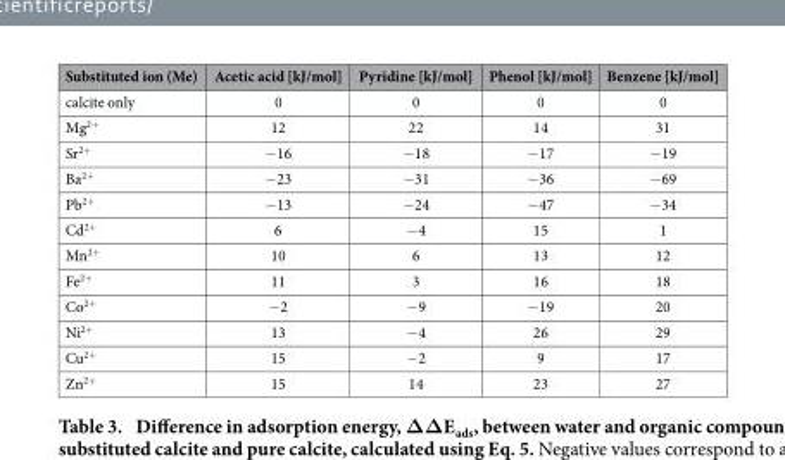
<table><thead><tr><td>Substituted ion (Me)</td><td>Acetic acid [kJ/mol]</td><td>Pyridine [kJ/mol]</td><td>Phenol [kJ/mol]</td><td>Benzene [kJ/mol]</td></tr></thead><tbody><tr><td>calcite only</td><td>0</td><td>0</td><td>0</td><td>0</td></tr><tr><td>Mg<sup>2+</sup></td><td>12</td><td>22</td><td>14</td><td>31</td></tr><tr><td>Sr<sup>2+</sup></td><td>− 16</td><td>− 18</td><td>− 17</td><td>− 19</td></tr><tr><td>Ba<sup>2+</sup></td><td>− 23</td><td>− 31</td><td>− 36</td><td>− 69</td></tr><tr><td>Pb<sup>2+</sup></td><td>− 13</td><td>− 24</td><td>− 47</td><td>− 34</td></tr><tr><td>Cd<sup>2+</sup></td><td>6</td><td>− 4</td><td>15</td><td>1</td></tr><tr><td>Mn<sup>2+</sup></td><td>10</td><td>6</td><td>13</td><td>12</td></tr><tr><td>Fe<sup>2+</sup></td><td>11</td><td>3</td><td>16</td><td>18</td></tr><tr><td>Co<sup>2+</sup></td><td>− 2</td><td>− 9</td><td>− 19</td><td>20</td></tr><tr><td>Ni<sup>2+</sup></td><td>13</td><td>− 4</td><td>26</td><td>29</td></tr><tr><td>Cu<sup>2+</sup></td><td>15</td><td>− 2</td><td>9</td><td>17</td></tr><tr><td>Zn<sup>2+</sup></td><td>15</td><td>14</td><td>23</td><td>27</td></tr></tbody></table>